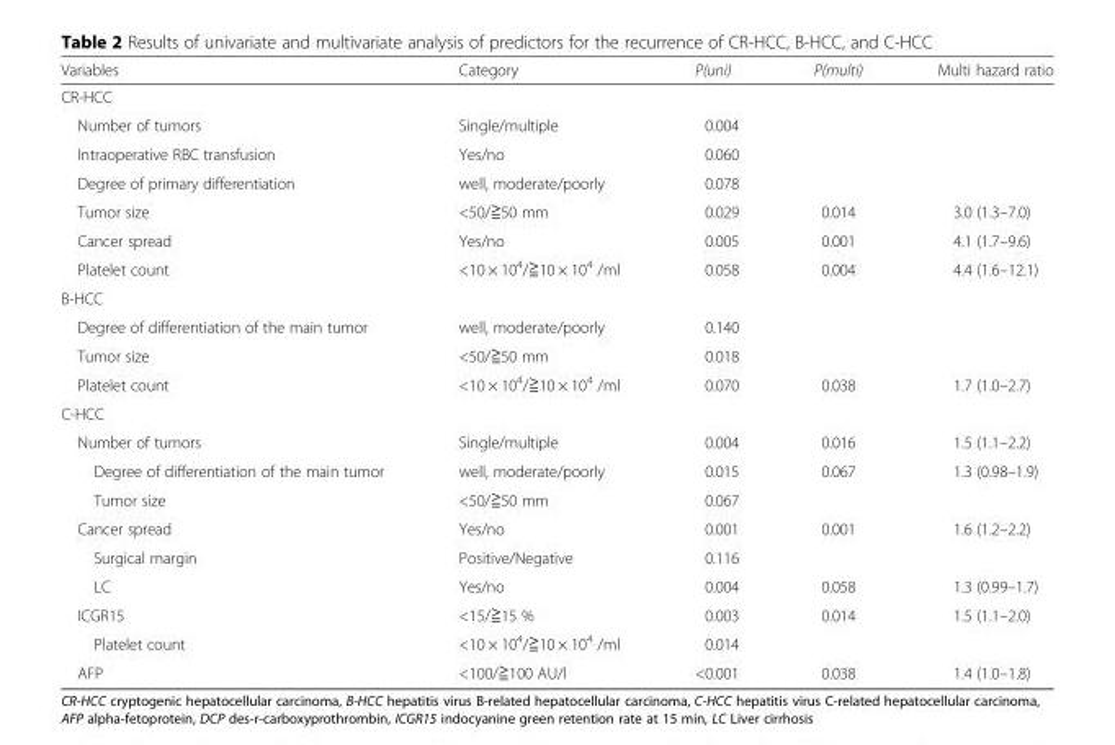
<table><thead><tr><td>Variables</td><td>Category</td><td>P(uni)</td><td>P(multi)</td><td>Multi hazard ratio</td></tr></thead><tbody><tr><td colspan="5">CR-HCC</td></tr><tr><td>Number of tumors</td><td>Single/multiple</td><td>0.004</td><td></td><td></td></tr><tr><td>Intraoperative RBC transfusion</td><td>Yes/no</td><td>0.060</td><td></td><td></td></tr><tr><td>Degree of primary differentiation</td><td>well, moderate/poorly</td><td>0.078</td><td></td><td></td></tr><tr><td>Tumor size</td><td>&lt;50/≧50 mm</td><td>0.029</td><td>0.014</td><td>3.0 (1.3–7.0)</td></tr><tr><td>Cancer spread</td><td>Yes/no</td><td>0.005</td><td>0.001</td><td>4.1 (1.7–9.6)</td></tr><tr><td>Platelet count</td><td>&lt;10 × 10<sup>4</sup>/≧10 × 10<sup>4</sup> /ml</td><td>0.058</td><td>0.004</td><td>4.4 (1.6–12.1)</td></tr><tr><td colspan="5">B-HCC</td></tr><tr><td>Degree of differentiation of the main tumor</td><td>well, moderate/poorly</td><td>0.140</td><td></td><td></td></tr><tr><td>Tumor size</td><td>&lt;50/≧50 mm</td><td>0.018</td><td></td><td></td></tr><tr><td>Platelet count</td><td>&lt;10 × 10<sup>4</sup>/≧10 × 10<sup>4</sup> /ml</td><td>0.070</td><td>0.038</td><td>1.7 (1.0–2.7)</td></tr><tr><td colspan="5">C-HCC</td></tr><tr><td>Number of tumors</td><td>Single/multiple</td><td>0.004</td><td>0.016</td><td>1.5 (1.1–2.2)</td></tr><tr><td>Degree of differentiation of the main tumor</td><td>well, moderate/poorly</td><td>0.015</td><td>0.067</td><td>1.3 (0.98–1.9)</td></tr><tr><td>Tumor size</td><td>&lt;50/≧50 mm</td><td>0.067</td><td></td><td></td></tr><tr><td>Cancer spread</td><td>Yes/no</td><td>0.001</td><td>0.001</td><td>1.6 (1.2–2.2)</td></tr><tr><td>Surgical margin</td><td>Positive/Negative</td><td>0.116</td><td></td><td></td></tr><tr><td>LC</td><td>Yes/no</td><td>0.004</td><td>0.058</td><td>1.3 (0.99–1.7)</td></tr><tr><td>ICGR15</td><td>&lt;15/≧15 %</td><td>0.003</td><td>0.014</td><td>1.5 (1.1–2.0)</td></tr><tr><td>Platelet count</td><td>&lt;10 × 10<sup>4</sup>/≧10 × 10<sup>4</sup> /ml</td><td>0.014</td><td></td><td></td></tr><tr><td>AFP</td><td>&lt;100/≧100 AU/l</td><td>&lt;0.001</td><td>0.038</td><td>1.4 (1.0–1.8)</td></tr></tbody></table>